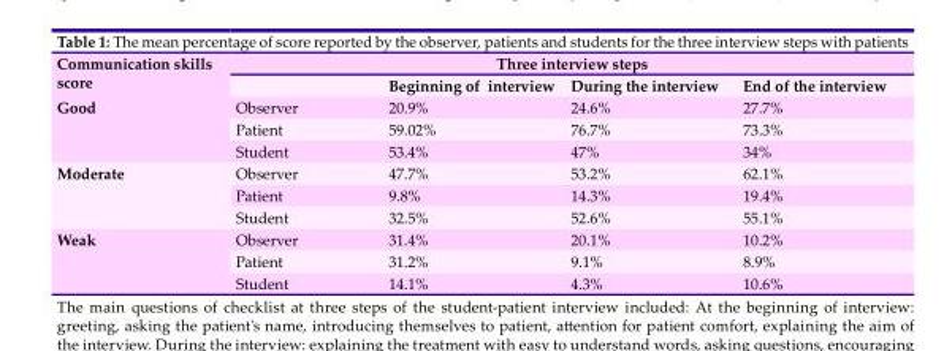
<table><thead><tr><td rowspan="2">Communication skills score</td><td colspan="4">Three interview steps</td></tr><tr><td></td><td>Beginning of interview</td><td>During the interview</td><td>End of the interview</td></tr></thead><tbody><tr><td rowspan="3">Good</td><td>Observer</td><td>20.9%</td><td>24.6%</td><td>27.7%</td></tr><tr><td>Patient</td><td>59.02%</td><td>76.7%</td><td>73.3%</td></tr><tr><td>Student</td><td>53.4%</td><td>47%</td><td>34%</td></tr><tr><td rowspan="3">Moderate</td><td>Observer</td><td>47.7%</td><td>53.2%</td><td>62.1%</td></tr><tr><td>Patient</td><td>9.8%</td><td>14.3%</td><td>19.4%</td></tr><tr><td>Student</td><td>32.5%</td><td>52.6%</td><td>55.1%</td></tr><tr><td rowspan="3">Weak</td><td>Observer</td><td>31.4%</td><td>20.1%</td><td>10.2%</td></tr><tr><td>Patient</td><td>31.2%</td><td>9.1%</td><td>8.9%</td></tr><tr><td>Student</td><td>14.1%</td><td>4.3%</td><td>10.6%</td></tr></tbody></table>